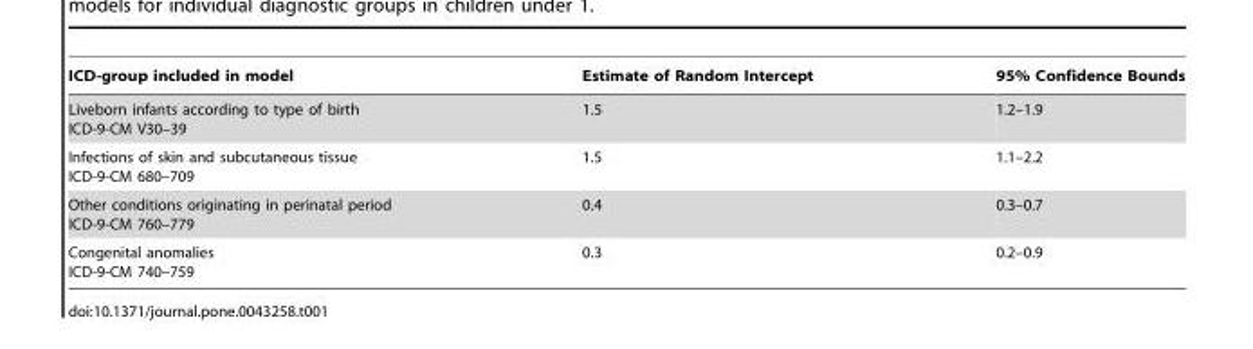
<table><thead><tr><td>ICD-group included in model</td><td>Estimate of Random Intercept</td><td>95% Confidence Bounds</td></tr></thead><tbody><tr><td>Liveborn infants according to type of birth ICD-9-CM V30–39</td><td>1.5</td><td>1.2–1.9</td></tr><tr><td>Infections of skin and subcutaneous tissue ICD-9-CM 680–709</td><td>1.5</td><td>1.1–2.2</td></tr><tr><td>Other conditions originating in perinatal period ICD-9-CM 760–779</td><td>0.4</td><td>0.3–0.7</td></tr><tr><td>Congenital anomalies ICD-9-CM 740–759</td><td>0.3</td><td>0.2–0.9</td></tr></tbody></table>